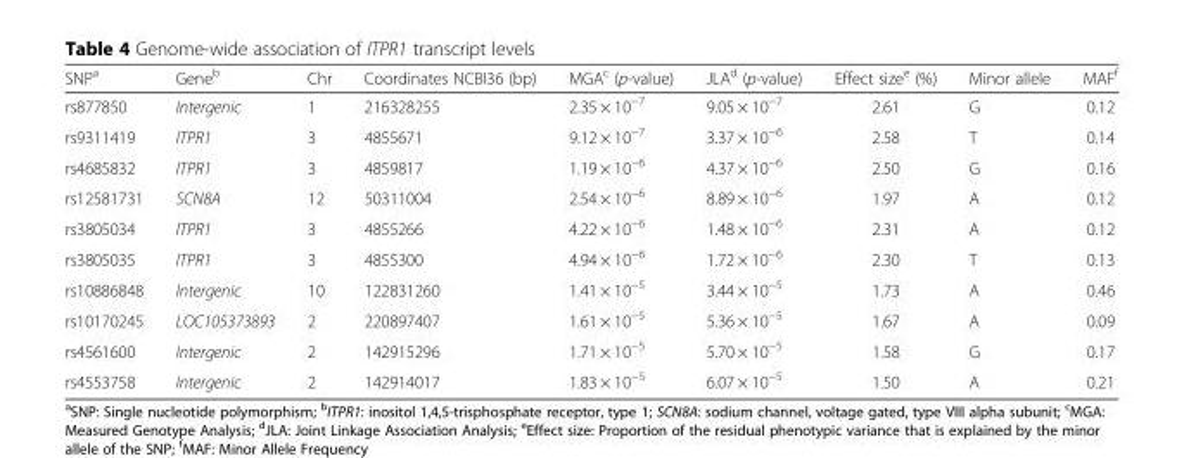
<table><thead><tr><td>SNP<sup>a</sup></td><td>Gene<sup>b</sup></td><td>Chr</td><td>Coordinates NCBI36 (bp)</td><td>MGA<sup>c</sup> (p-value)</td><td>JLA<sup>d</sup> (p-value)</td><td>Effect size<sup>e</sup> (%)</td><td>Minor allele</td><td>MAF<sup>f</sup></td></tr></thead><tbody><tr><td>rs877850</td><td>Intergenic</td><td>1</td><td>216328255</td><td>2.35 × 10<sup>−7</sup></td><td>9.05 × 10<sup>−7</sup></td><td>2.61</td><td>G</td><td>0.12</td></tr><tr><td>rs9311419</td><td>ITPR1</td><td>3</td><td>4855671</td><td>9.12 × 10<sup>−7</sup></td><td>3.37 × 10<sup>−6</sup></td><td>2.58</td><td>T</td><td>0.14</td></tr><tr><td>rs4685832</td><td>ITPR1</td><td>3</td><td>4859817</td><td>1.19 × 10<sup>−6</sup></td><td>4.37 × 10<sup>−6</sup></td><td>2.50</td><td>G</td><td>0.16</td></tr><tr><td>rs12581731</td><td>SCN8A</td><td>12</td><td>50311004</td><td>2.54 × 10<sup>−6</sup></td><td>8.89 × 10<sup>−6</sup></td><td>1.97</td><td>A</td><td>0.12</td></tr><tr><td>rs3805034</td><td>ITPR1</td><td>3</td><td>4855266</td><td>4.22 × 10<sup>−6</sup></td><td>1.48 × 10<sup>−6</sup></td><td>2.31</td><td>A</td><td>0.12</td></tr><tr><td>rs3805035</td><td>ITPR1</td><td>3</td><td>4855300</td><td>4.94 × 10<sup>−6</sup></td><td>1.72 × 10<sup>−6</sup></td><td>2.30</td><td>T</td><td>0.13</td></tr><tr><td>rs10886848</td><td>Intergenic</td><td>10</td><td>122831260</td><td>1.41 × 10<sup>−5</sup></td><td>3.44 × 10<sup>−5</sup></td><td>1.73</td><td>A</td><td>0.46</td></tr><tr><td>rs10170245</td><td>LOC105373893</td><td>2</td><td>220897407</td><td>1.61 × 10<sup>−5</sup></td><td>5.36 × 10<sup>−5</sup></td><td>1.67</td><td>A</td><td>0.09</td></tr><tr><td>rs4561600</td><td>Intergenic</td><td>2</td><td>142915296</td><td>1.71 × 10<sup>−5</sup></td><td>5.70 × 10<sup>−5</sup></td><td>1.58</td><td>G</td><td>0.17</td></tr><tr><td>rs4553758</td><td>Intergenic</td><td>2</td><td>142914017</td><td>1.83 × 10<sup>−5</sup></td><td>6.07 × 10<sup>−5</sup></td><td>1.50</td><td>A</td><td>0.21</td></tr></tbody></table>